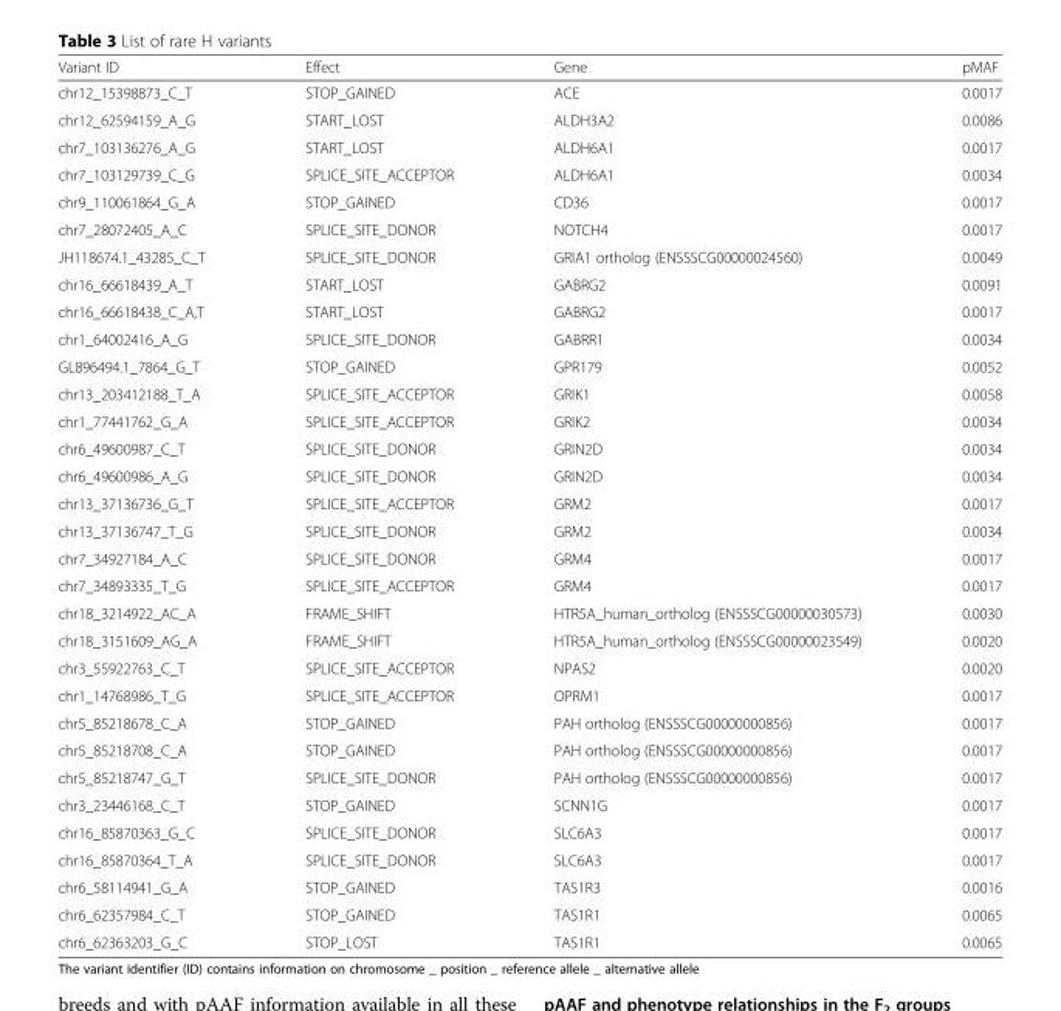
<table><thead><tr><td>Variant ID</td><td>Effect</td><td>Gene</td><td>pMAF</td></tr></thead><tbody><tr><td>chr12_15398873_C_T</td><td>STOP_GAINED</td><td>ACE</td><td>0.0017</td></tr><tr><td>chr12_62594159_A_G</td><td>START_LOST</td><td>ALDH3A2</td><td>0.0086</td></tr><tr><td>chr7_103136276_A_G</td><td>START_LOST</td><td>ALDH6A1</td><td>0.0017</td></tr><tr><td>chr7_103129739_C_G</td><td>SPLICE_SITE_ACCEPTOR</td><td>ALDH6A1</td><td>0.0034</td></tr><tr><td>chr9_110061864_G_A</td><td>STOP_GAINED</td><td>CD36</td><td>0.0017</td></tr><tr><td>chr7_28072405_A_C</td><td>SPLICE_SITE_DONOR</td><td>NOTCH4</td><td>0.0017</td></tr><tr><td>JH118674.1_43285_C_T</td><td>SPLICE_SITE_DONOR</td><td>GRIA1 ortholog (ENSSSCG00000024560)</td><td>0.0049</td></tr><tr><td>chr16_66618439_A_T</td><td>START_LOST</td><td>GABRG2</td><td>0.0091</td></tr><tr><td>chr16_66618438_C_A,T</td><td>START_LOST</td><td>GABRG2</td><td>0.0017</td></tr><tr><td>chr1_64002416_A_G</td><td>SPLICE_SITE_DONOR</td><td>GABRR1</td><td>0.0034</td></tr><tr><td>GL896494.1_7864_G_T</td><td>STOP_GAINED</td><td>GPR179</td><td>0.0052</td></tr><tr><td>chr13_203412188_T_A</td><td>SPLICE_SITE_ACCEPTOR</td><td>GRIK1</td><td>0.0058</td></tr><tr><td>chr1_77441762_G_A</td><td>SPLICE_SITE_ACCEPTOR</td><td>GRIK2</td><td>0.0034</td></tr><tr><td>chr6_49600987_C_T</td><td>SPLICE_SITE_DONOR</td><td>GRIN2D</td><td>0.0034</td></tr><tr><td>chr6_49600986_A_G</td><td>SPLICE_SITE_DONOR</td><td>GRIN2D</td><td>0.0034</td></tr><tr><td>chr13_37136736_G_T</td><td>SPLICE_SITE_ACCEPTOR</td><td>GRM2</td><td>0.0017</td></tr><tr><td>chr13_37136747_T_G</td><td>SPLICE_SITE_DONOR</td><td>GRM2</td><td>0.0034</td></tr><tr><td>chr7_34927184_A_C</td><td>SPLICE_SITE_DONOR</td><td>GRM4</td><td>0.0017</td></tr><tr><td>chr7_34893335_T_G</td><td>SPLICE_SITE_ACCEPTOR</td><td>GRM4</td><td>0.0017</td></tr><tr><td>chr18_3214922_AC_A</td><td>FRAME_SHIFT</td><td>HTR5A_human_ortholog (ENSSSCG00000030573)</td><td>0.0030</td></tr><tr><td>chr18_3151609_AG_A</td><td>FRAME_SHIFT</td><td>HTR5A_human_ortholog (ENSSSCG00000023549)</td><td>0.0020</td></tr><tr><td>chr3_55922763_C_T</td><td>SPLICE_SITE_ACCEPTOR</td><td>NPAS2</td><td>0.0020</td></tr><tr><td>chr1_14768986_T_G</td><td>SPLICE_SITE_ACCEPTOR</td><td>OPRM1</td><td>0.0017</td></tr><tr><td>chr5_85218678_C_A</td><td>STOP_GAINED</td><td>PAH ortholog (ENSSSCG00000000856)</td><td>0.0017</td></tr><tr><td>chr5_85218708_C_A</td><td>STOP_GAINED</td><td>PAH ortholog (ENSSSCG00000000856)</td><td>0.0017</td></tr><tr><td>chr5_85218747_G_T</td><td>SPLICE_SITE_DONOR</td><td>PAH ortholog (ENSSSCG00000000856)</td><td>0.0017</td></tr><tr><td>chr3_23446168_C_T</td><td>STOP_GAINED</td><td>SCNN1G</td><td>0.0017</td></tr><tr><td>chr16_85870363_G_C</td><td>SPLICE_SITE_DONOR</td><td>SLC6A3</td><td>0.0017</td></tr><tr><td>chr16_85870364_T_A</td><td>SPLICE_SITE_DONOR</td><td>SLC6A3</td><td>0.0017</td></tr><tr><td>chr6_58114941_G_A</td><td>STOP_GAINED</td><td>TAS1R3</td><td>0.0016</td></tr><tr><td>chr6_62357984_C_T</td><td>STOP_GAINED</td><td>TAS1R1</td><td>0.0065</td></tr><tr><td>chr6_62363203_G_C</td><td>STOP_LOST</td><td>TAS1R1</td><td>0.0065</td></tr></tbody></table>